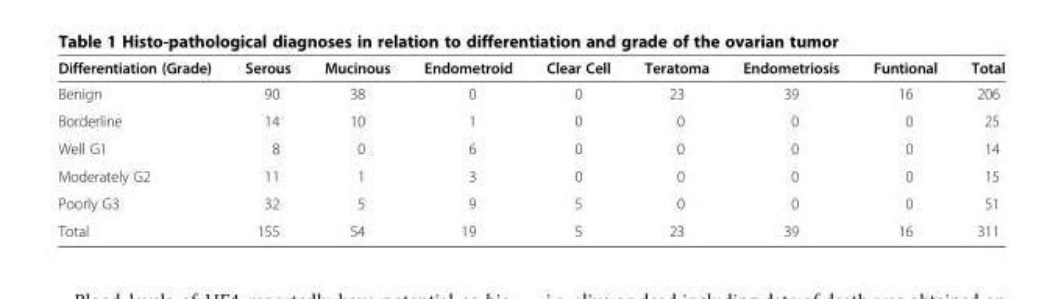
<table><thead><tr><td>Differentiation (Grade)</td><td>Serous</td><td>Mucinous</td><td>Endometroid</td><td>Clear Cell</td><td>Teratoma</td><td>Endometriosis</td><td>Funtional</td><td>Total</td></tr></thead><tbody><tr><td>Benign</td><td>90</td><td>38</td><td>0</td><td>0</td><td>23</td><td>39</td><td>16</td><td>206</td></tr><tr><td>Borderline</td><td>14</td><td>10</td><td>1</td><td>0</td><td>0</td><td>0</td><td>0</td><td>25</td></tr><tr><td>Well G1</td><td>8</td><td>0</td><td>6</td><td>0</td><td>0</td><td>0</td><td>0</td><td>14</td></tr><tr><td>Moderately G2</td><td>11</td><td>1</td><td>3</td><td>0</td><td>0</td><td>0</td><td>0</td><td>15</td></tr><tr><td>Poorly G3</td><td>32</td><td>5</td><td>9</td><td>5</td><td>0</td><td>0</td><td>0</td><td>51</td></tr><tr><td>Total</td><td>155</td><td>54</td><td>19</td><td>5</td><td>23</td><td>39</td><td>16</td><td>311</td></tr></tbody></table>